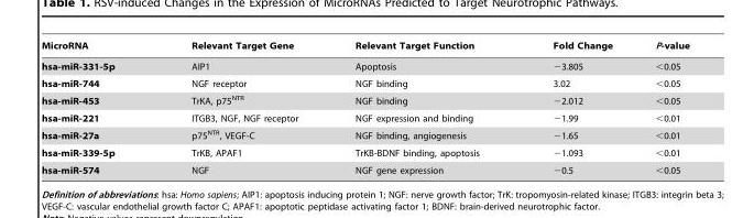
<table><thead><tr><td>MicroRNA</td><td>Relevant Target Gene</td><td>Relevant Target Function</td><td>Fold Change</td><td>P-value</td></tr></thead><tbody><tr><td>hsa-miR-331-5p</td><td>AIP1</td><td>Apoptosis</td><td>−3.805</td><td>&lt;0.05</td></tr><tr><td>hsa-miR-744</td><td>NGF receptor</td><td>NGF binding</td><td>3.02</td><td>&lt;0.05</td></tr><tr><td>hsa-miR-453</td><td>TrKA, p75<sup>NTR</sup></td><td>NGF binding</td><td>−2.012</td><td>&lt;0.05</td></tr><tr><td>hsa-miR-221</td><td>ITGB3, NGF, NGF receptor</td><td>NGF expression and binding</td><td>−1.99</td><td>&lt;0.01</td></tr><tr><td>hsa-miR-27a</td><td>p75<sup>NTR</sup>, VEGF-C</td><td>NGF binding, angiogenesis</td><td>−1.65</td><td>&lt;0.01</td></tr><tr><td>hsa-miR-339-5p</td><td>TrKB, APAF1</td><td>TrKB-BDNF binding, apoptosis</td><td>−1.093</td><td>&lt;0.01</td></tr><tr><td>hsa-miR-574</td><td>NGF</td><td>NGF gene expression</td><td>−0.5</td><td>&lt;0.05</td></tr></tbody></table>